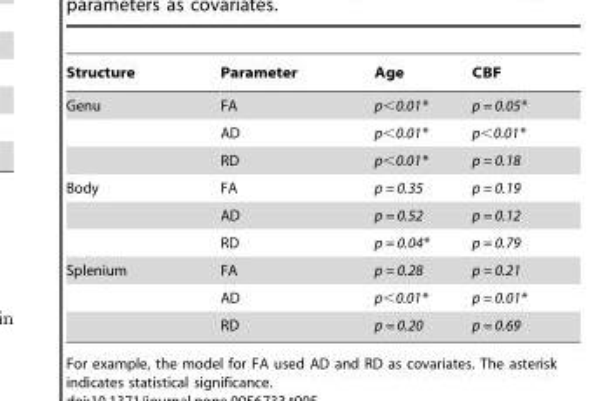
<table><thead><tr><td>Structure</td><td>Parameter</td><td>Age</td><td>CBF</td></tr></thead><tbody><tr><td rowspan="3">Genu</td><td>FA</td><td>p&lt;0.01*</td><td>p = 0.05*</td></tr><tr><td>AD</td><td>p&lt;0.01*</td><td>p&lt;0.01*</td></tr><tr><td>RD</td><td>p&lt;0.01*</td><td>p = 0.18</td></tr><tr><td rowspan="3">Body</td><td>FA</td><td>p = 0.35</td><td>p = 0.19</td></tr><tr><td>AD</td><td>p = 0.52</td><td>p = 0.12</td></tr><tr><td>RD</td><td>p = 0.04*</td><td>p = 0.79</td></tr><tr><td rowspan="3">Splenium</td><td>FA</td><td>p = 0.28</td><td>p = 0.21</td></tr><tr><td>AD</td><td>p&lt;0.01*</td><td>p = 0.01*</td></tr><tr><td>RD</td><td>p = 0.20</td><td>p = 0.69</td></tr></tbody></table>